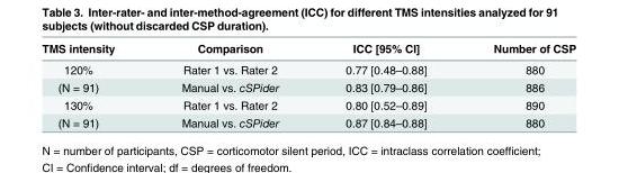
<table><thead><tr><td>TMS intensity</td><td>Comparison</td><td>ICC [95% CI]</td><td>Number of CSP</td></tr></thead><tbody><tr><td>120%</td><td>Rater 1 vs. Rater 2</td><td>0.77 [0.48–0.88]</td><td>880</td></tr><tr><td>(N = 91)</td><td>Manual vs. cSPider</td><td>0.83 [0.79–0.86]</td><td>886</td></tr><tr><td>130%</td><td>Rater 1 vs. Rater 2</td><td>0.80 [0.52–0.89]</td><td>890</td></tr><tr><td>(N = 91)</td><td>Manual vs. cSPider</td><td>0.87 [0.84–0.88]</td><td>880</td></tr></tbody></table>